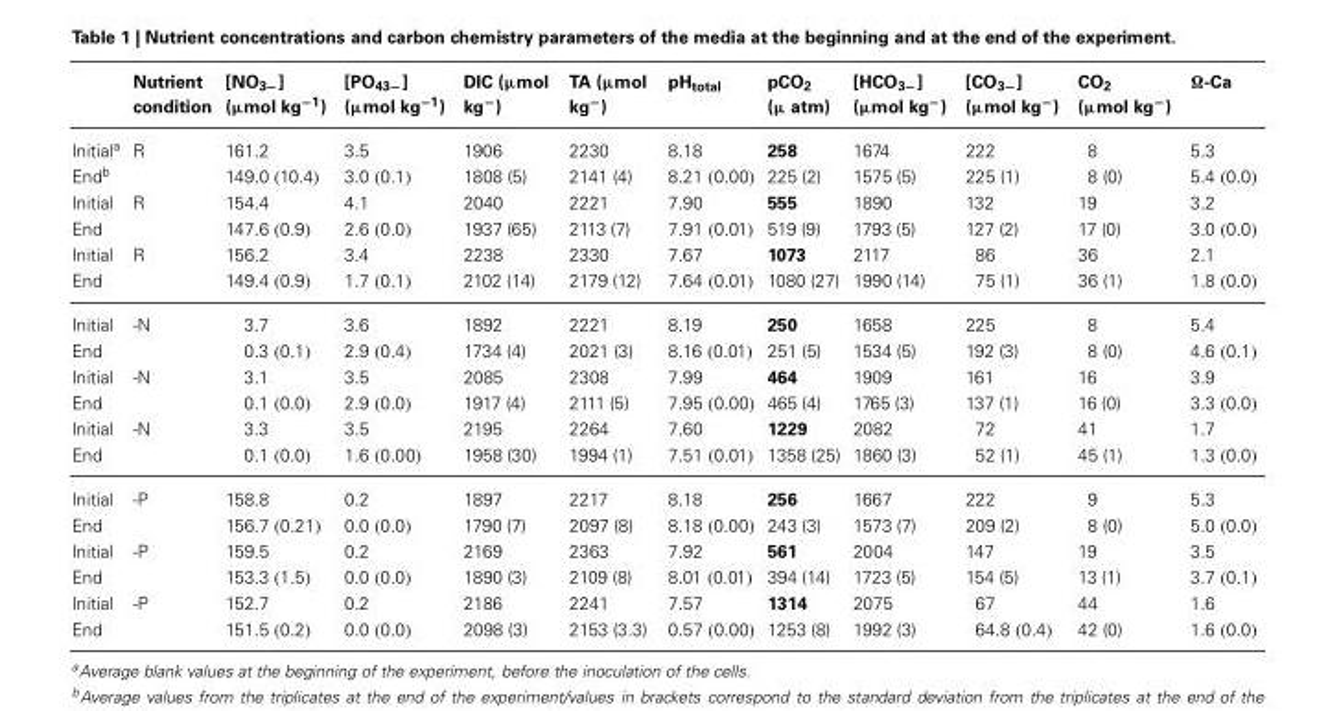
<table><thead><tr><td></td><td>Nutrient condition</td><td>[NO<sub>3−</sub>] (µmol kg<sup>−1</sup>)</td><td>[PO<sub>43−</sub>] (µmol kg<sup>−1</sup>)</td><td>DIC (µmol kg<sup>−</sup>)</td><td>TA (µmol kg<sup>−</sup>)</td><td>pH<sub>total</sub></td><td>pCO<sub>2</sub> (µ atm)</td><td>[HCO<sub>3−</sub>] (µmol kg<sup>−</sup>)</td><td>[CO<sub>3−</sub>] (µmol kg<sup>−</sup>)</td><td>CO<sub>2</sub> (µmol kg<sup>−</sup>)</td><td>Ω-Ca</td></tr></thead><tbody><tr><td>Initial<sup>a</sup></td><td>R</td><td>161.2</td><td>3.5</td><td>1906</td><td>2230</td><td>8.18</td><td>258</td><td>1674</td><td>222</td><td>8</td><td>5.3</td></tr><tr><td>End<sup>b</sup></td><td></td><td>149.0 (10.4)</td><td>3.0 (0.1)</td><td>1808 (5)</td><td>2141 (4)</td><td>8.21 (0.00)</td><td>225 (2)</td><td>1575 (5)</td><td>225 (1)</td><td>8 (0)</td><td>5.4 (0.0)</td></tr><tr><td>Initial</td><td>R</td><td>154.4</td><td>4.1</td><td>2040</td><td>2221</td><td>7.90</td><td>555</td><td>1890</td><td>132</td><td>19</td><td>3.2</td></tr><tr><td>End</td><td></td><td>147.6 (0.9)</td><td>2.6 (0.0)</td><td>1937 (65)</td><td>2113 (7)</td><td>7.91 (0.01)</td><td>519 (9)</td><td>1793 (5)</td><td>127 (2)</td><td>17 (0)</td><td>3.0 (0.0)</td></tr><tr><td>Initial</td><td>R</td><td>156.2</td><td>3.4</td><td>2238</td><td>2330</td><td>7.67</td><td>1073</td><td>2117</td><td>86</td><td>36</td><td>2.1</td></tr><tr><td>End</td><td></td><td>149.4 (0.9)</td><td>1.7 (0.1)</td><td>2102 (14)</td><td>2179 (12)</td><td>7.64 (0.01)</td><td>1080 (27)</td><td>1990 (14)</td><td>75 (1)</td><td>36 (1)</td><td>1.8 (0.0)</td></tr><tr><td>Initial</td><td>-N</td><td>3.7</td><td>3.6</td><td>1892</td><td>2221</td><td>8.19</td><td>250</td><td>1658</td><td>225</td><td>8</td><td>5.4</td></tr><tr><td>End</td><td></td><td>0.3 (0.1)</td><td>2.9 (0.4)</td><td>1734 (4)</td><td>2021 (3)</td><td>8.16 (0.01)</td><td>251 (5)</td><td>1534 (5)</td><td>192 (3)</td><td>8 (0)</td><td>4.6 (0.1)</td></tr><tr><td>Initial</td><td>-N</td><td>3.1</td><td>3.5</td><td>2085</td><td>2308</td><td>7.99</td><td>464</td><td>1909</td><td>161</td><td>16</td><td>3.9</td></tr><tr><td>End</td><td></td><td>0.1 (0.0)</td><td>2.9 (0.0)</td><td>1917 (4)</td><td>2111 (5)</td><td>7.95 (0.00)</td><td>465 (4)</td><td>1765 (3)</td><td>137 (1)</td><td>16 (0)</td><td>3.3 (0.0)</td></tr><tr><td>Initial</td><td>-N</td><td>3.3</td><td>3.5</td><td>2195</td><td>2264</td><td>7.60</td><td>1229</td><td>2082</td><td>72</td><td>41</td><td>1.7</td></tr><tr><td>End</td><td></td><td>0.1 (0.0)</td><td>1.6 (0.00)</td><td>1958 (30)</td><td>1994 (1)</td><td>7.51 (0.01)</td><td>1358 (25)</td><td>1860 (3)</td><td>52 (1)</td><td>45 (1)</td><td>1.3 (0.0)</td></tr><tr><td>Initial</td><td>-P</td><td>158.8</td><td>0.2</td><td>1897</td><td>2217</td><td>8.18</td><td>256</td><td>1667</td><td>222</td><td>9</td><td>5.3</td></tr><tr><td>End</td><td></td><td>156.7 (0.21)</td><td>0.0 (0.0)</td><td>1790 (7)</td><td>2097 (8)</td><td>8.18 (0.00)</td><td>243 (3)</td><td>1573 (7)</td><td>209 (2)</td><td>8 (0)</td><td>5.0 (0.0)</td></tr><tr><td>Initial</td><td>-P</td><td>159.5</td><td>0.2</td><td>2169</td><td>2363</td><td>7.92</td><td>561</td><td>2004</td><td>147</td><td>19</td><td>3.5</td></tr><tr><td>End</td><td></td><td>153.3 (1.5)</td><td>0.0 (0.0)</td><td>1890 (3)</td><td>2109 (8)</td><td>8.01 (0.01)</td><td>394 (14)</td><td>1723 (5)</td><td>154 (5)</td><td>13 (1)</td><td>3.7 (0.1)</td></tr><tr><td>Initial</td><td>-P</td><td>152.7</td><td>0.2</td><td>2186</td><td>2241</td><td>7.57</td><td>1314</td><td>2075</td><td>67</td><td>44</td><td>1.6</td></tr><tr><td>End</td><td></td><td>151.5 (0.2)</td><td>0.0 (0.0)</td><td>2098 (3)</td><td>2153 (3.3)</td><td>0.57 (0.00)</td><td>1253 (8)</td><td>1992 (3)</td><td>64.8 (0.4)</td><td>42 (0)</td><td>1.6 (0.0)</td></tr></tbody></table>